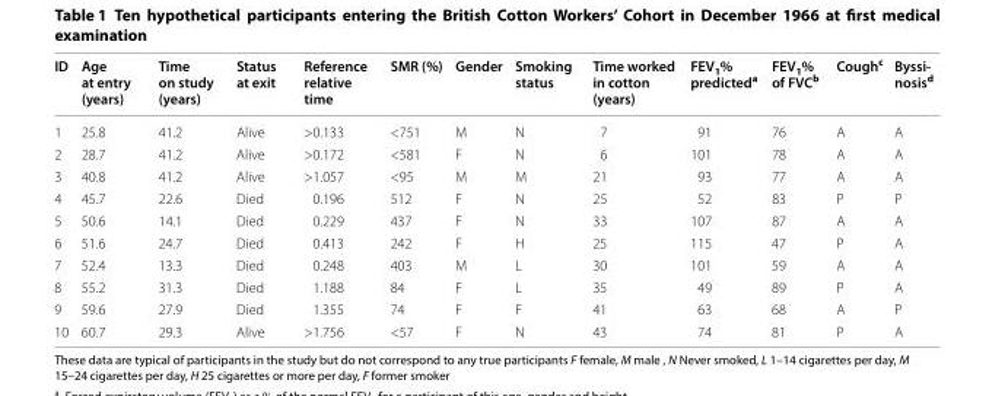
<table><thead><tr><td>ID</td><td>Age at entry (years)</td><td>Time on study (years)</td><td>Status at exit</td><td>Reference relative time</td><td>SMR (%)</td><td>Gender</td><td>Smoking status</td><td>Time worked in cotton (years)</td><td>FEV<sub>1</sub>% predicted<sup>a</sup></td><td>FEV<sub>1</sub>% of FVC<sup>b</sup></td><td>Cough<sup>c</sup></td><td>Byssi‑ nosisd</td></tr></thead><tbody><tr><td>1</td><td>25.8</td><td>41.2</td><td>Alive</td><td>&gt;0.133</td><td>&lt;751</td><td>M</td><td>N</td><td>7</td><td>91</td><td>76</td><td>A</td><td>A</td></tr><tr><td>2</td><td>28.7</td><td>41.2</td><td>Alive</td><td>&gt;0.172</td><td>&lt;581</td><td>F</td><td>N</td><td>6</td><td>101</td><td>78</td><td>A</td><td>A</td></tr><tr><td>3</td><td>40.8</td><td>41.2</td><td>Alive</td><td>&gt;1.057</td><td>&lt;95</td><td>M</td><td>M</td><td>21</td><td>93</td><td>77</td><td>A</td><td>A</td></tr><tr><td>4</td><td>45.7</td><td>22.6</td><td>Died</td><td>0.196</td><td>512</td><td>F</td><td>N</td><td>25</td><td>52</td><td>83</td><td>P</td><td>P</td></tr><tr><td>5</td><td>50.6</td><td>14.1</td><td>Died</td><td>0.229</td><td>437</td><td>F</td><td>N</td><td>33</td><td>107</td><td>87</td><td>A</td><td>A</td></tr><tr><td>6</td><td>51.6</td><td>24.7</td><td>Died</td><td>0.413</td><td>242</td><td>F</td><td>H</td><td>25</td><td>115</td><td>47</td><td>P</td><td>A</td></tr><tr><td>7</td><td>52.4</td><td>13.3</td><td>Died</td><td>0.248</td><td>403</td><td>M</td><td>L</td><td>30</td><td>101</td><td>59</td><td>A</td><td>A</td></tr><tr><td>8</td><td>55.2</td><td>31.3</td><td>Died</td><td>1.188</td><td>84</td><td>F</td><td>L</td><td>35</td><td>49</td><td>89</td><td>P</td><td>A</td></tr><tr><td>9</td><td>59.6</td><td>27.9</td><td>Died</td><td>1.355</td><td>74</td><td>F</td><td>F</td><td>41</td><td>63</td><td>68</td><td>A</td><td>P</td></tr><tr><td>10</td><td>60.7</td><td>29.3</td><td>Alive</td><td>&gt;1.756</td><td>&lt;57</td><td>F</td><td>N</td><td>43</td><td>74</td><td>81</td><td>P</td><td>A</td></tr></tbody></table>